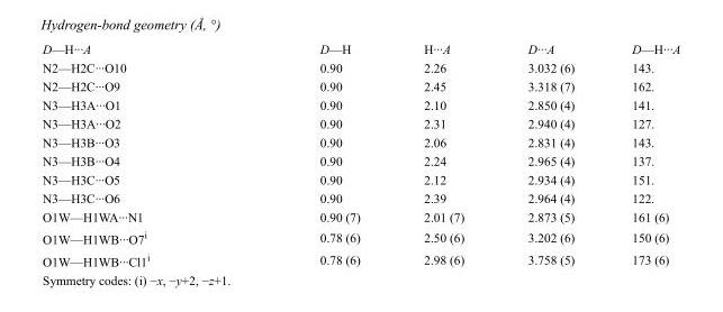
<table><tbody><tr><td>D—H···A</td><td>D—H</td><td>H···A</td><td>D···A</td><td>D—H···A</td></tr><tr><td>N2—H2C···O10</td><td>0.90</td><td>2.26</td><td>3.032 (6)</td><td>143.</td></tr><tr><td>N2—H2C···O9</td><td>0.90</td><td>2.45</td><td>3.318 (7)</td><td>162.</td></tr><tr><td>N3—H3A···O1</td><td>0.90</td><td>2.10</td><td>2.850 (4)</td><td>141.</td></tr><tr><td>N3—H3A···O2</td><td>0.90</td><td>2.31</td><td>2.940 (4)</td><td>127.</td></tr><tr><td>N3—H3B···O3</td><td>0.90</td><td>2.06</td><td>2.831 (4)</td><td>143.</td></tr><tr><td>N3—H3B···O4</td><td>0.90</td><td>2.24</td><td>2.965 (4)</td><td>137.</td></tr><tr><td>N3—H3C···O5</td><td>0.90</td><td>2.12</td><td>2.934 (4)</td><td>151.</td></tr><tr><td>N3—H3C···O6</td><td>0.90</td><td>2.39</td><td>2.964 (4)</td><td>122.</td></tr><tr><td>O1W—H1WA···N1</td><td>0.90 (7)</td><td>2.01 (7)</td><td>2.873 (5)</td><td>161 (6)</td></tr><tr><td>O1W—H1WB···O7<sup>i</sup></td><td>0.78 (6)</td><td>2.50 (6)</td><td>3.202 (6)</td><td>150 (6)</td></tr><tr><td>O1W—H1WB···Cl1<sup>i</sup></td><td>0.78 (6)</td><td>2.98 (6)</td><td>3.758 (5)</td><td>173 (6)</td></tr></tbody></table>